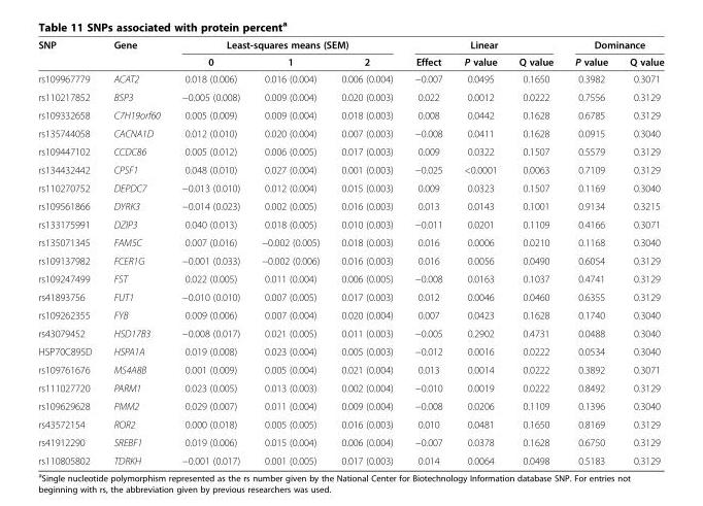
<table><thead><tr><td rowspan="2">SNP</td><td rowspan="2">Gene</td><td colspan="3">Least-squares means (SEM)</td><td colspan="3">Linear</td><td colspan="2">Dominance</td></tr><tr><td>0</td><td>1</td><td>2</td><td>Effect</td><td>P value</td><td>Q value</td><td>P value</td><td>Q value</td></tr></thead><tbody><tr><td>rs109967779</td><td>ACAT2</td><td>0.018 (0.006)</td><td>0.016 (0.004)</td><td>0.006 (0.004)</td><td>−0.007</td><td>0.0495</td><td>0.1650</td><td>0.3982</td><td>0.3071</td></tr><tr><td>rs110217852</td><td>BSP3</td><td>−0.005 (0.008)</td><td>0.009 (0.004)</td><td>0.020 (0.003)</td><td>0.022</td><td>0.0012</td><td>0.0222</td><td>0.7556</td><td>0.3129</td></tr><tr><td>rs109332658</td><td>C7H19orf60</td><td>0.005 (0.009)</td><td>0.009 (0.004)</td><td>0.018 (0.003)</td><td>0.008</td><td>0.0442</td><td>0.1628</td><td>0.6785</td><td>0.3129</td></tr><tr><td>rs135744058</td><td>CACNA1D</td><td>0.012 (0.010)</td><td>0.020 (0.004)</td><td>0.007 (0.003)</td><td>−0.008</td><td>0.0411</td><td>0.1628</td><td>0.0915</td><td>0.3040</td></tr><tr><td>rs109447102</td><td>CCDC86</td><td>0.005 (0.012)</td><td>0.006 (0.005)</td><td>0.017 (0.003)</td><td>0.009</td><td>0.0322</td><td>0.1507</td><td>0.5579</td><td>0.3129</td></tr><tr><td>rs134432442</td><td>CPSF1</td><td>0.048 (0.010)</td><td>0.027 (0.004)</td><td>0.001 (0.003)</td><td>−0.025</td><td>&lt;0.0001</td><td>0.0063</td><td>0.7109</td><td>0.3129</td></tr><tr><td>rs110270752</td><td>DEPDC7</td><td>−0.013 (0.010)</td><td>0.012 (0.004)</td><td>0.015 (0.003)</td><td>0.009</td><td>0.0323</td><td>0.1507</td><td>0.1169</td><td>0.3040</td></tr><tr><td>rs109561866</td><td>DYRK3</td><td>−0.014 (0.023)</td><td>0.002 (0.005)</td><td>0.016 (0.003)</td><td>0.013</td><td>0.0143</td><td>0.1001</td><td>0.9134</td><td>0.3215</td></tr><tr><td>rs133175991</td><td>DZIP3</td><td>0.040 (0.013)</td><td>0.018 (0.005)</td><td>0.010 (0.003)</td><td>−0.011</td><td>0.0201</td><td>0.1109</td><td>0.4166</td><td>0.3071</td></tr><tr><td>rs135071345</td><td>FAM5C</td><td>0.007 (0.016)</td><td>−0.002 (0.005)</td><td>0.018 (0.003)</td><td>0.016</td><td>0.0006</td><td>0.0210</td><td>0.1168</td><td>0.3040</td></tr><tr><td>rs109137982</td><td>FCER1G</td><td>−0.001 (0.033)</td><td>−0.002 (0.006)</td><td>0.016 (0.003)</td><td>0.016</td><td>0.0056</td><td>0.0490</td><td>0.6054</td><td>0.3129</td></tr><tr><td>rs109247499</td><td>FST</td><td>0.022 (0.005)</td><td>0.011 (0.004)</td><td>0.006 (0.005)</td><td>−0.008</td><td>0.0163</td><td>0.1037</td><td>0.4741</td><td>0.3129</td></tr><tr><td>rs41893756</td><td>FUT1</td><td>−0.010 (0.010)</td><td>0.007 (0.005)</td><td>0.017 (0.003)</td><td>0.012</td><td>0.0046</td><td>0.0460</td><td>0.6355</td><td>0.3129</td></tr><tr><td>rs109262355</td><td>FYB</td><td>0.009 (0.006)</td><td>0.007 (0.004)</td><td>0.020 (0.004)</td><td>0.007</td><td>0.0423</td><td>0.1628</td><td>0.1740</td><td>0.3040</td></tr><tr><td>rs43079452</td><td>HSD17B3</td><td>−0.008 (0.017)</td><td>0.021 (0.005)</td><td>0.011 (0.003)</td><td>−0.005</td><td>0.2902</td><td>0.4731</td><td>0.0488</td><td>0.3040</td></tr><tr><td>HSP70C895D</td><td>HSPA1A</td><td>0.019 (0.008)</td><td>0.023 (0.004)</td><td>0.005 (0.003)</td><td>−0.012</td><td>0.0016</td><td>0.0222</td><td>0.0534</td><td>0.3040</td></tr><tr><td>rs109761676</td><td>MS4A8B</td><td>0.001 (0.009)</td><td>0.005 (0.004)</td><td>0.021 (0.004)</td><td>0.013</td><td>0.0014</td><td>0.0222</td><td>0.3892</td><td>0.3071</td></tr><tr><td>rs111027720</td><td>PARM1</td><td>0.023 (0.005)</td><td>0.013 (0.003)</td><td>0.002 (0.004)</td><td>−0.010</td><td>0.0019</td><td>0.0222</td><td>0.8492</td><td>0.3129</td></tr><tr><td>rs109629628</td><td>PMM2</td><td>0.029 (0.007)</td><td>0.011 (0.004)</td><td>0.009 (0.004)</td><td>−0.008</td><td>0.0206</td><td>0.1109</td><td>0.1396</td><td>0.3040</td></tr><tr><td>rs43572154</td><td>ROR2</td><td>0.000 (0.018)</td><td>0.005 (0.005)</td><td>0.016 (0.003)</td><td>0.010</td><td>0.0481</td><td>0.1650</td><td>0.8169</td><td>0.3129</td></tr><tr><td>rs41912290</td><td>SREBF1</td><td>0.019 (0.006)</td><td>0.015 (0.004)</td><td>0.006 (0.004)</td><td>−0.007</td><td>0.0378</td><td>0.1628</td><td>0.6750</td><td>0.3129</td></tr><tr><td>rs110805802</td><td>TDRKH</td><td>−0.001 (0.017)</td><td>0.001 (0.005)</td><td>0.017 (0.003)</td><td>0.014</td><td>0.0064</td><td>0.0498</td><td>0.5183</td><td>0.3129</td></tr></tbody></table>